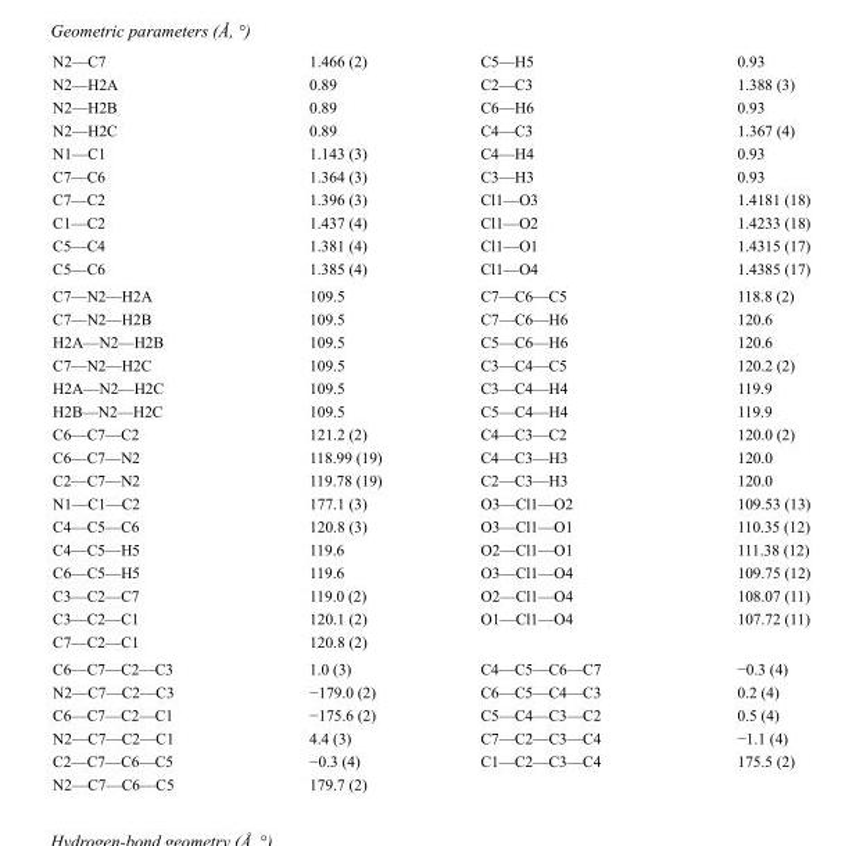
<table><tbody><tr><td>N2—C7</td><td>1.466 (2)</td><td>C5—H5</td><td>0.93</td></tr><tr><td>N2—H2A</td><td>0.89</td><td>C2—C3</td><td>1.388 (3)</td></tr><tr><td>N2—H2B</td><td>0.89</td><td>C6—H6</td><td>0.93</td></tr><tr><td>N2—H2C</td><td>0.89</td><td>C4—C3</td><td>1.367 (4)</td></tr><tr><td>N1—C1</td><td>1.143 (3)</td><td>C4—H4</td><td>0.93</td></tr><tr><td>C7—C6</td><td>1.364 (3)</td><td>C3—H3</td><td>0.93</td></tr><tr><td>C7—C2</td><td>1.396 (3)</td><td>Cl1—O3</td><td>1.4181 (18)</td></tr><tr><td>C1—C2</td><td>1.437 (4)</td><td>Cl1—O2</td><td>1.4233 (18)</td></tr><tr><td>C5—C4</td><td>1.381 (4)</td><td>Cl1—O1</td><td>1.4315 (17)</td></tr><tr><td>C5—C6</td><td>1.385 (4)</td><td>Cl1—O4</td><td>1.4385 (17)</td></tr><tr><td>C7—N2—H2A</td><td>109.5</td><td>C7—C6—C5</td><td>118.8 (2)</td></tr><tr><td>C7—N2—H2B</td><td>109.5</td><td>C7—C6—H6</td><td>120.6</td></tr><tr><td>H2A—N2—H2B</td><td>109.5</td><td>C5—C6—H6</td><td>120.6</td></tr><tr><td>C7—N2—H2C</td><td>109.5</td><td>C3—C4—C5</td><td>120.2 (2)</td></tr><tr><td>H2A—N2—H2C</td><td>109.5</td><td>C3—C4—H4</td><td>119.9</td></tr><tr><td>H2B—N2—H2C</td><td>109.5</td><td>C5—C4—H4</td><td>119.9</td></tr><tr><td>C6—C7—C2</td><td>121.2 (2)</td><td>C4—C3—C2</td><td>120.0 (2)</td></tr><tr><td>C6—C7—N2</td><td>118.99 (19)</td><td>C4—C3—H3</td><td>120.0</td></tr><tr><td>C2—C7—N2</td><td>119.78 (19)</td><td>C2—C3—H3</td><td>120.0</td></tr><tr><td>N1—C1—C2</td><td>177.1 (3)</td><td>O3—Cl1—O2</td><td>109.53 (13)</td></tr><tr><td>C4—C5—C6</td><td>120.8 (3)</td><td>O3—Cl1—O1</td><td>110.35 (12)</td></tr><tr><td>C4—C5—H5</td><td>119.6</td><td>O2—Cl1—O1</td><td>111.38 (12)</td></tr><tr><td>C6—C5—H5</td><td>119.6</td><td>O3—Cl1—O4</td><td>109.75 (12)</td></tr><tr><td>C3—C2—C7</td><td>119.0 (2)</td><td>O2—Cl1—O4</td><td>108.07 (11)</td></tr><tr><td>C3—C2—C1</td><td>120.1 (2)</td><td>O1—Cl1—O4</td><td>107.72 (11)</td></tr><tr><td>C7—C2—C1</td><td>120.8 (2)</td><td></td><td></td></tr><tr><td>C6—C7—C2—C3</td><td>1.0 (3)</td><td>C4—C5—C6—C7</td><td>−0.3 (4)</td></tr><tr><td>N2—C7—C2—C3</td><td>−179.0 (2)</td><td>C6—C5—C4—C3</td><td>0.2 (4)</td></tr><tr><td>C6—C7—C2—C1</td><td>−175.6 (2)</td><td>C5—C4—C3—C2</td><td>0.5 (4)</td></tr><tr><td>N2—C7—C2—C1</td><td>4.4 (3)</td><td>C7—C2—C3—C4</td><td>−1.1 (4)</td></tr><tr><td>C2—C7—C6—C5</td><td>−0.3 (4)</td><td>C1—C2—C3—C4</td><td>175.5 (2)</td></tr><tr><td>N2—C7—C6—C5</td><td>179.7 (2)</td><td></td><td></td></tr></tbody></table>